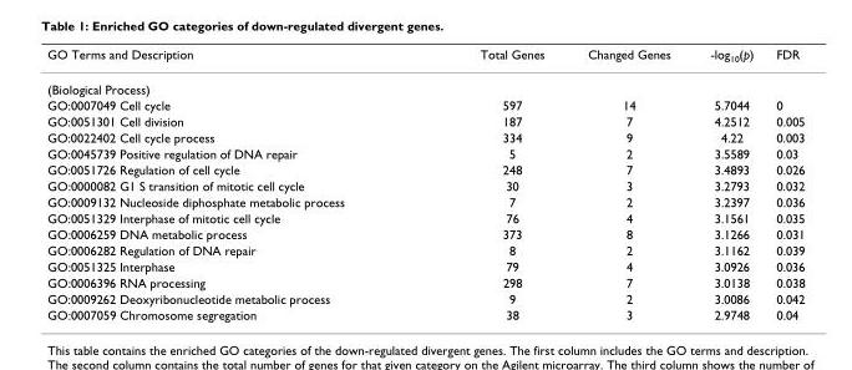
<table><thead><tr><td>GO Terms and Description</td><td>Total Genes</td><td>Changed Genes</td><td>-log<sub>10</sub>(p)</td><td>FDR</td></tr></thead><tbody><tr><td colspan="5">(Biological Process)</td></tr><tr><td>GO:0007049 Cell cycle</td><td>597</td><td>14</td><td>5.7044</td><td>0</td></tr><tr><td>GO:0051301 Cell division</td><td>187</td><td>7</td><td>4.2512</td><td>0.005</td></tr><tr><td>GO:0022402 Cell cycle process</td><td>334</td><td>9</td><td>4.22</td><td>0.003</td></tr><tr><td>GO:0045739 Positive regulation of DNA repair</td><td>5</td><td>2</td><td>3.5589</td><td>0.03</td></tr><tr><td>GO:0051726 Regulation of cell cycle</td><td>248</td><td>7</td><td>3.4893</td><td>0.026</td></tr><tr><td>GO:0000082 G1 S transition of mitotic cell cycle</td><td>30</td><td>3</td><td>3.2793</td><td>0.032</td></tr><tr><td>GO:0009132 Nucleoside diphosphate metabolic process</td><td>7</td><td>2</td><td>3.2397</td><td>0.036</td></tr><tr><td>GO:0051329 Interphase of mitotic cell cycle</td><td>76</td><td>4</td><td>3.1561</td><td>0.035</td></tr><tr><td>GO:0006259 DNA metabolic process</td><td>373</td><td>8</td><td>3.1266</td><td>0.031</td></tr><tr><td>GO:0006282 Regulation of DNA repair</td><td>8</td><td>2</td><td>3.1162</td><td>0.039</td></tr><tr><td>GO:0051325 Interphase</td><td>79</td><td>4</td><td>3.0926</td><td>0.036</td></tr><tr><td>GO:0006396 RNA processing</td><td>298</td><td>7</td><td>3.0138</td><td>0.038</td></tr><tr><td>GO:0009262 Deoxyribonucleotide metabolic process</td><td>9</td><td>2</td><td>3.0086</td><td>0.042</td></tr><tr><td>GO:0007059 Chromosome segregation</td><td>38</td><td>3</td><td>2.9748</td><td>0.04</td></tr></tbody></table>